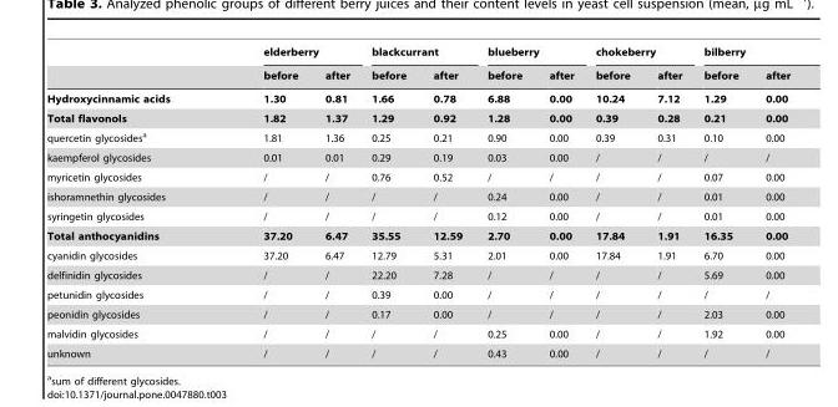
<table><thead><tr><td rowspan="2"></td><td colspan="2">elderberry</td><td colspan="2">blackcurrant</td><td colspan="2">blueberry</td><td colspan="2">chokeberry</td><td colspan="2">bilberry</td></tr><tr><td>before</td><td>after</td><td>before</td><td>after</td><td>before</td><td>after</td><td>before</td><td>after</td><td>before</td><td>after</td></tr></thead><tbody><tr><td>Hydroxycinnamic acids</td><td>1.30</td><td>0.81</td><td>1.66</td><td>0.78</td><td>6.88</td><td>0.00</td><td>10.24</td><td>7.12</td><td>1.29</td><td>0.00</td></tr><tr><td>Total flavonols</td><td>1.82</td><td>1.37</td><td>1.29</td><td>0.92</td><td>1.28</td><td>0.00</td><td>0.39</td><td>0.28</td><td>0.21</td><td>0.00</td></tr><tr><td>quercetin glycosides<sup>a</sup></td><td>1.81</td><td>1.36</td><td>0.25</td><td>0.21</td><td>0.90</td><td>0.00</td><td>0.39</td><td>0.31</td><td>0.10</td><td>0.00</td></tr><tr><td>kaempferol glycosides</td><td>0.01</td><td>0.01</td><td>0.29</td><td>0.19</td><td>0.03</td><td>0.00</td><td>/</td><td>/</td><td>/</td><td>/</td></tr><tr><td>myricetin glycosides</td><td>/</td><td>/</td><td>0.76</td><td>0.52</td><td>/</td><td>/</td><td>/</td><td>/</td><td>0.07</td><td>0.00</td></tr><tr><td>ishoramnethin glycosides</td><td>/</td><td>/</td><td>/</td><td>/</td><td>0.24</td><td>0.00</td><td>/</td><td>/</td><td>0.01</td><td>0.00</td></tr><tr><td>syringetin glycosides</td><td>/</td><td>/</td><td>/</td><td>/</td><td>0.12</td><td>0.00</td><td>/</td><td>/</td><td>0.01</td><td>0.00</td></tr><tr><td>Total anthocyanidins</td><td>37.20</td><td>6.47</td><td>35.55</td><td>12.59</td><td>2.70</td><td>0.00</td><td>17.84</td><td>1.91</td><td>16.35</td><td>0.00</td></tr><tr><td>cyanidin glycosides</td><td>37.20</td><td>6.47</td><td>12.79</td><td>5.31</td><td>2.01</td><td>0.00</td><td>17.84</td><td>1.91</td><td>6.70</td><td>0.00</td></tr><tr><td>delfinidin glycosides</td><td>/</td><td>/</td><td>22.20</td><td>7.28</td><td>/</td><td>/</td><td>/</td><td>/</td><td>5.69</td><td>0.00</td></tr><tr><td>petunidin glycosides</td><td>/</td><td>/</td><td>0.39</td><td>0.00</td><td>/</td><td>/</td><td>/</td><td>/</td><td>/</td><td>/</td></tr><tr><td>peonidin glycosides</td><td>/</td><td>/</td><td>0.17</td><td>0.00</td><td>/</td><td>/</td><td>/</td><td>/</td><td>2.03</td><td>0.00</td></tr><tr><td>malvidin glycosides</td><td>/</td><td>/</td><td>/</td><td>/</td><td>0.25</td><td>0.00</td><td>/</td><td>/</td><td>1.92</td><td>0.00</td></tr><tr><td>unknown</td><td>/</td><td>/</td><td>/</td><td>/</td><td>0.43</td><td>0.00</td><td>/</td><td>/</td><td>/</td><td>/</td></tr></tbody></table>